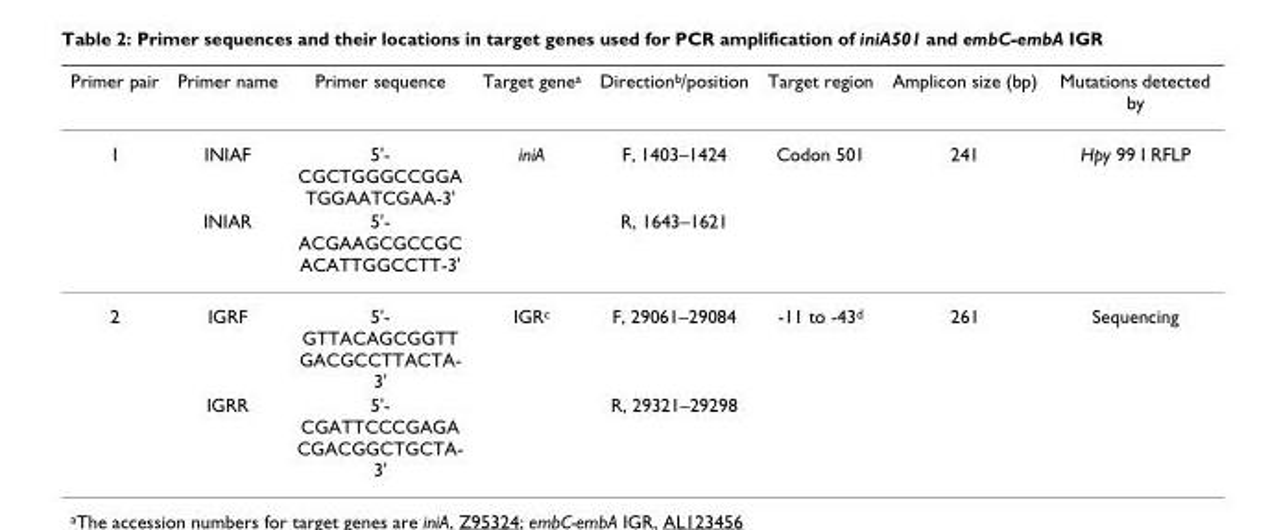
<table><thead><tr><td>Primer pair</td><td>Primer name</td><td>Primer sequence</td><td>Target gene<sup>a</sup></td><td>Direction<sup>b</sup>/position</td><td>Target region</td><td>Amplicon size (bp)</td><td>Mutations detected by</td></tr></thead><tbody><tr><td rowspan="2">1</td><td>INIAF</td><td>5&#x27;- CGCTGGGCCGGA TGGAATCGAA-3&#x27;</td><td>iniA</td><td>F, 1403–1424</td><td>Codon 501</td><td>241</td><td>Hpy 99 I RFLP</td></tr><tr><td>INIAR</td><td>5&#x27;- ACGAAGCGCCGC ACATTGGCCTT-3&#x27;</td><td></td><td>R, 1643–1621</td><td></td><td></td><td></td></tr><tr><td rowspan="2">2</td><td>IGRF</td><td>5&#x27;- GTTACAGCGGTT GACGCCTTACTA- 3&#x27;</td><td>IGR<sup>c</sup></td><td>F, 29061–29084</td><td>-11 to -43<sup>d</sup></td><td>261</td><td>Sequencing</td></tr><tr><td>IGRR</td><td>5&#x27;- CGATTCCCGAGA CGACGGCTGCTA-</td><td></td><td>R, 29321–29298</td><td></td><td></td><td></td></tr></tbody></table>